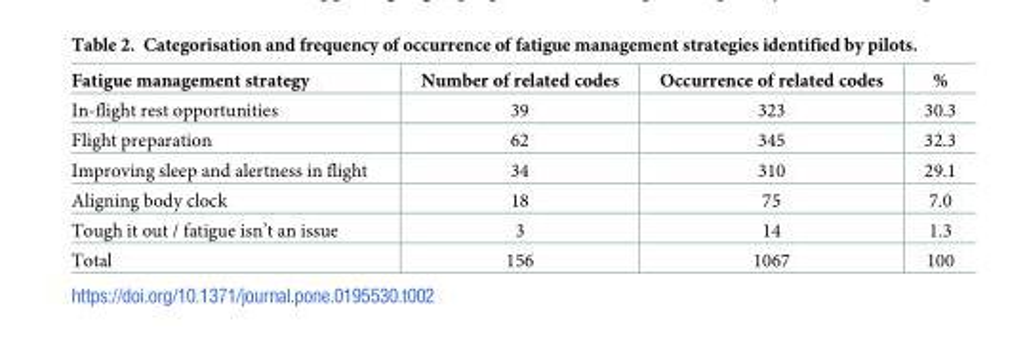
<table><thead><tr><td>Fatigue management strategy</td><td>Number of related codes</td><td>Occurrence of related codes</td><td>%</td></tr></thead><tbody><tr><td>In-flight rest opportunities</td><td>39</td><td>323</td><td>30.3</td></tr><tr><td>Flight preparation</td><td>62</td><td>345</td><td>32.3</td></tr><tr><td>Improving sleep and alertness in flight</td><td>34</td><td>310</td><td>29.1</td></tr><tr><td>Aligning body clock</td><td>18</td><td>75</td><td>7.0</td></tr><tr><td>Tough it out / fatigue isn’t an issue</td><td>3</td><td>14</td><td>1.3</td></tr><tr><td>Total</td><td>156</td><td>1067</td><td>100</td></tr></tbody></table>